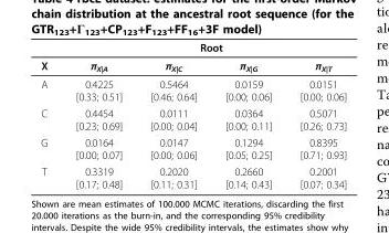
<table><thead><tr><td rowspan="2">X</td><td colspan="4">Root</td></tr><tr><td>π<sub>X|A</sub></td><td>π<sub>X|C</sub></td><td>π<sub>X|G</sub></td><td>π<sub>X|T</sub></td></tr></thead><tbody><tr><td>A</td><td>0.4225 [0.33; 0.51]</td><td>0.5464 [0.46; 0.64]</td><td>0.0159 [0.00; 0.06]</td><td>0.0151 [0.00; 0.06]</td></tr><tr><td>C</td><td>0.4454 [0.23; 0.69]</td><td>0.0111 [0.00; 0.04]</td><td>0.0364 [0.00; 0.11]</td><td>0.5071 [0.26; 0.73]</td></tr><tr><td>G</td><td>0.0164 [0.00; 0.07]</td><td>0.0147 [0.00; 0.06]</td><td>0.1294 [0.05; 0.25]</td><td>0.8395 [0.71; 0.93]</td></tr><tr><td>T</td><td>0.3319 [0.17; 0.48]</td><td>0.2020 [0.11; 0.31]</td><td>0.2660 [0.14; 0.43]</td><td>0.2001 [0.07; 0.34]</td></tr></tbody></table>